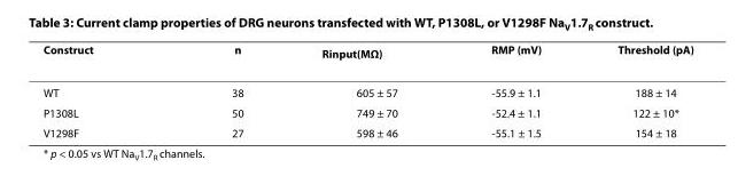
<table><thead><tr><td>Construct</td><td>n</td><td>R<sub>input</sub>(MΩ)</td><td>RMP (mV)</td><td>Threshold (pA)</td></tr></thead><tbody><tr><td>WT</td><td>38</td><td>605 ± 57</td><td>-55.9 ± 1.1</td><td>188 ± 14</td></tr><tr><td>P1308L</td><td>50</td><td>749 ± 70</td><td>-52.4 ± 1.1</td><td>122 ± 10*</td></tr><tr><td>V1298F</td><td>27</td><td>598 ± 46</td><td>-55.1 ± 1.5</td><td>154 ± 18</td></tr></tbody></table>